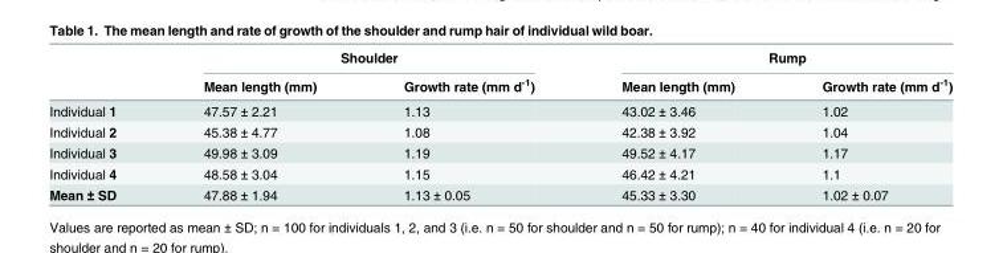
<table><thead><tr><td rowspan="2"></td><td colspan="2">Shoulder</td><td colspan="2">Rump</td></tr><tr><td>Mean length (mm)</td><td>Growth rate (mm d<sup>-1</sup>)</td><td>Mean length (mm)</td><td>Growth rate (mm d<sup>-1</sup>)</td></tr></thead><tbody><tr><td>Individual 1</td><td>47.57 ± 2.21</td><td>1.13</td><td>43.02 ± 3.46</td><td>1.02</td></tr><tr><td>Individual 2</td><td>45.38 ± 4.77</td><td>1.08</td><td>42.38 ± 3.92</td><td>1.04</td></tr><tr><td>Individual 3</td><td>49.98 ± 3.09</td><td>1.19</td><td>49.52 ± 4.17</td><td>1.17</td></tr><tr><td>Individual 4</td><td>48.58 ± 3.04</td><td>1.15</td><td>46.42 ± 4.21</td><td>1.1</td></tr><tr><td>Mean ± SD</td><td>47.88 ± 1.94</td><td>1.13 ± 0.05</td><td>45.33 ± 3.30</td><td>1.02 ± 0.07</td></tr></tbody></table>